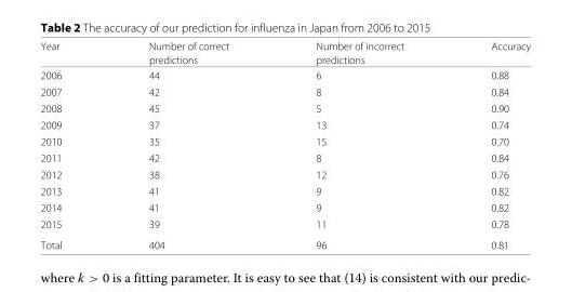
<table><thead><tr><td rowspan="2">Year</td><td rowspan="2">Number of correct predictions</td><td rowspan="2">Number of incorrect predictions</td><td rowspan="2">Accuracy</td></tr><tr></tr></thead><tbody><tr><td>2006</td><td>44</td><td>6</td><td>0.88</td></tr><tr><td>2007</td><td>42</td><td>8</td><td>0.84</td></tr><tr><td>2008</td><td>45</td><td>5</td><td>0.90</td></tr><tr><td>2009</td><td>37</td><td>13</td><td>0.74</td></tr><tr><td>2010</td><td>35</td><td>15</td><td>0.70</td></tr><tr><td>2011</td><td>42</td><td>8</td><td>0.84</td></tr><tr><td>2012</td><td>38</td><td>12</td><td>0.76</td></tr><tr><td>2013</td><td>41</td><td>9</td><td>0.82</td></tr><tr><td>2014</td><td>41</td><td>9</td><td>0.82</td></tr><tr><td>2015</td><td>39</td><td>11</td><td>0.78</td></tr><tr><td>Total</td><td>404</td><td>96</td><td>0.81</td></tr></tbody></table>